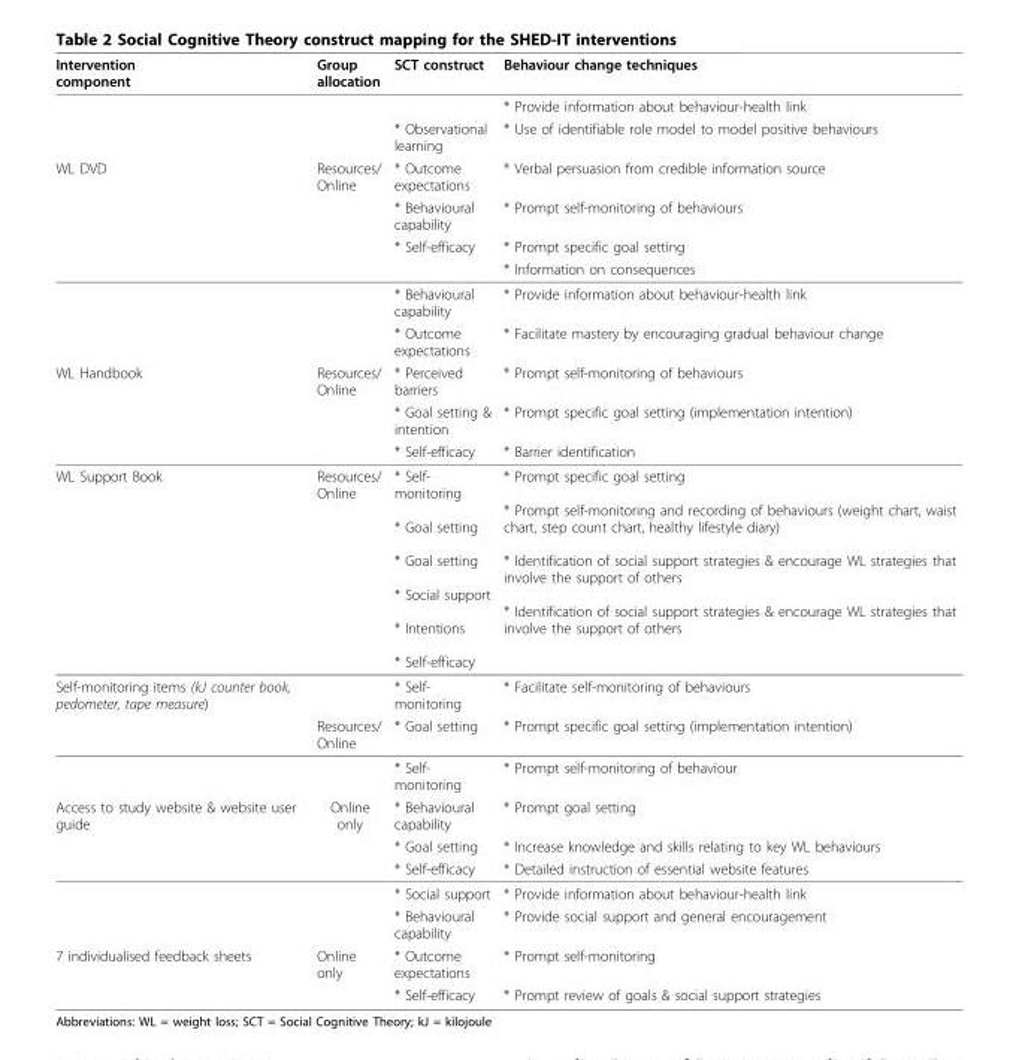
<table><thead><tr><td>Intervention component</td><td>Group allocation</td><td>SCT construct</td><td>Behaviour change techniques</td></tr></thead><tbody><tr><td></td><td></td><td></td><td>* Provide information about behaviour-health link</td></tr><tr><td></td><td></td><td>* Observational learning</td><td>* Use of identifiable role model to model positive behaviours</td></tr><tr><td rowspan="6">WL DVD</td><td>Resources/ Online</td><td>* Outcome expectations</td><td>* Verbal persuasion from credible information source</td></tr><tr><td></td><td>* Behavioural capability</td><td>* Prompt self-monitoring of behaviours</td></tr><tr><td></td><td>* Self-efficacy</td><td>* Prompt specific goal setting</td></tr><tr><td></td><td></td><td>* Information on consequences</td></tr><tr><td></td><td>* Behavioural capability</td><td>* Provide information about behaviour-health link</td></tr><tr><td></td><td>* Outcome expectations</td><td>* Facilitate mastery by encouraging gradual behaviour change</td></tr><tr><td rowspan="3">WL Handbook</td><td>Resources/ Online</td><td>* Perceived barriers</td><td>* Prompt self-monitoring of behaviours</td></tr><tr><td></td><td>* Goal setting &amp; intention</td><td>* Prompt specific goal setting (implementation intention)</td></tr><tr><td></td><td>* Self-efficacy</td><td>* Barrier identification</td></tr><tr><td>WL Support Book</td><td>Resources/ Online</td><td>* Self- monitoring * Goal setting * Goal setting * Social support * Intentions * Self-efficacy</td><td>* Prompt specific goal setting * Prompt self-monitoring and recording of behaviours (weight chart, waist chart, step count chart, healthy lifestyle diary) * Identification of social support strategies &amp; encourage WL strategies that involve the support of others * Identification of social support strategies &amp; encourage WL strategies that involve the support of others</td></tr><tr><td rowspan="3">Self-monitoring items (kJ counter book, pedometer, tape measure)</td><td></td><td>* Self- monitoring</td><td>* Facilitate self-monitoring of behaviours</td></tr><tr><td>Resources/ Online</td><td>* Goal setting</td><td>* Prompt specific goal setting (implementation intention)</td></tr><tr><td></td><td>* Self- monitoring</td><td>* Prompt self-monitoring of behaviour</td></tr><tr><td rowspan="5">Access to study website &amp; website user guide</td><td>Online only</td><td>* Behavioural capability</td><td>* Prompt goal setting</td></tr><tr><td></td><td>* Goal setting</td><td>* Increase knowledge and skills relating to key WL behaviours</td></tr><tr><td></td><td>* Self-efficacy</td><td>* Detailed instruction of essential website features</td></tr><tr><td></td><td>* Social support</td><td>* Provide information about behaviour-health link</td></tr><tr><td></td><td>* Behavioural capability</td><td>* Provide social support and general encouragement</td></tr><tr><td rowspan="2">7 individualised feedback sheets</td><td>Online only</td><td>* Outcome expectations</td><td>* Prompt self-monitoring</td></tr><tr><td></td><td>* Self-efficacy</td><td>* Prompt review of goals &amp; social support strategies</td></tr></tbody></table>